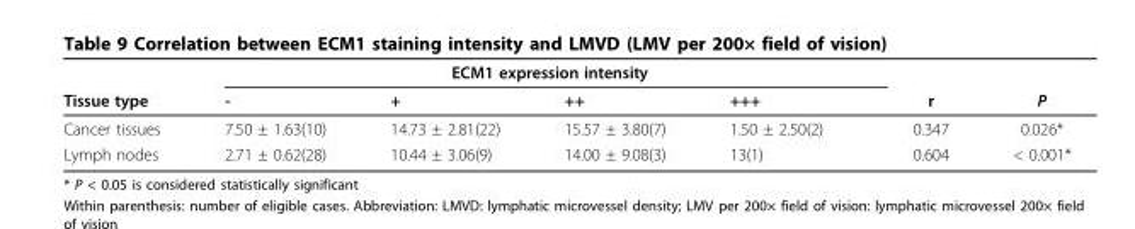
<table><thead><tr><td rowspan="2">Tissue type</td><td colspan="4">ECM1 expression intensity</td><td rowspan="2">r</td><td rowspan="2">P</td></tr><tr><td>-</td><td>+</td><td>++</td><td>+++</td></tr></thead><tbody><tr><td>Cancer tissues</td><td>7.50 ± 1.63(10)</td><td>14.73 ± 2.81(22)</td><td>15.57 ± 3.80(7)</td><td>1.50 ± 2.50(2)</td><td>0.347</td><td>0.026*</td></tr><tr><td>Lymph nodes</td><td>2.71 ± 0.62(28)</td><td>10.44 ± 3.06(9)</td><td>14.00 ± 9.08(3)</td><td>13(1)</td><td>0.604</td><td>&lt; 0.001*</td></tr></tbody></table>